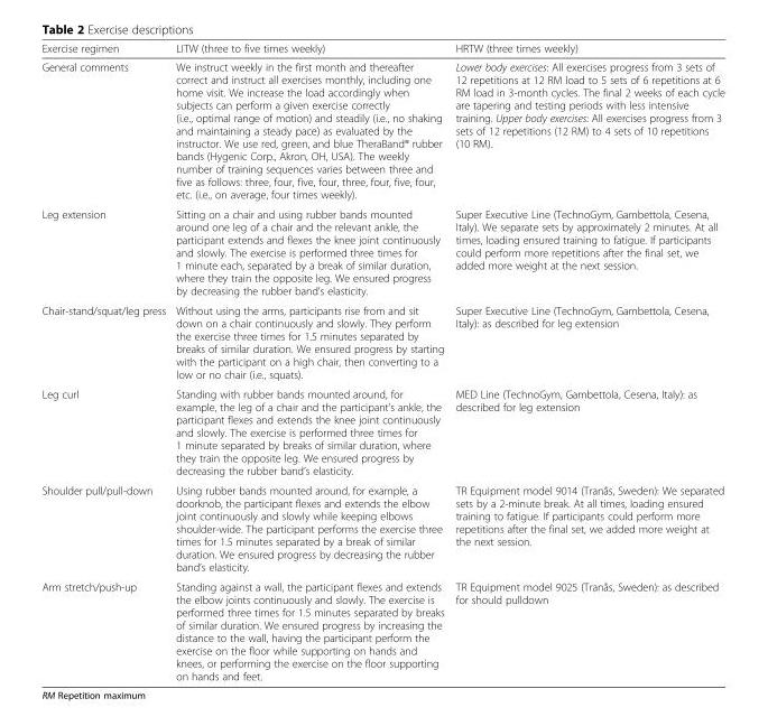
<table><thead><tr><td>Exercise regimen</td><td>LITW (three to five times weekly)</td><td>HRTW (three times weekly)</td></tr></thead><tbody><tr><td>General comments</td><td>We instruct weekly in the first month and thereafter correct and instruct all exercises monthly, including one home visit. We increase the load accordingly when subjects can perform a given exercise correctly (i.e., optimal range of motion) and steadily (i.e., no shaking and maintaining a steady pace) as evaluated by the instructor. We use red, green, and blue TheraBand® rubber bands (Hygenic Corp., Akron, OH, USA). The weekly number of training sequences varies between three and five as follows: three, four, five, four, three, four, five, four, etc. (i.e., on average, four times weekly).</td><td>Lower body exercises: All exercises progress from 3 sets of 12 repetitions at 12 RM load to 5 sets of 6 repetitions at 6 RM load in 3-month cycles. The final 2 weeks of each cycle are tapering and testing periods with less intensive training. Upper body exercises: All exercises progress from 3 sets of 12 repetitions (12 RM) to 4 sets of 10 repetitions (10 RM).</td></tr><tr><td>Leg extension</td><td>Sitting on a chair and using rubber bands mounted around one leg of a chair and the relevant ankle, the participant extends and flexes the knee joint continuously and slowly. The exercise is performed three times for 1 minute each, separated by a break of similar duration, where they train the opposite leg. We ensured progress by decreasing the rubber band’s elasticity.</td><td>Super Executive Line (TechnoGym, Gambettola, Cesena, Italy). We separate sets by approximately 2 minutes. At all times, loading ensured training to fatigue. If participants could perform more repetitions after the final set, we added more weight at the next session.</td></tr><tr><td>Chair-stand/squat/leg press</td><td>Without using the arms, participants rise from and sit down on a chair continuously and slowly. They perform the exercise three times for 1.5 minutes separated by breaks of similar duration. We ensured progress by starting with the participant on a high chair, then converting to a low or no chair (i.e., squats).</td><td>Super Executive Line (TechnoGym, Gambettola, Cesena, Italy): as described for leg extension</td></tr><tr><td>Leg curl</td><td>Standing with rubber bands mounted around, for example, the leg of a chair and the participant’s ankle, the participant flexes and extends the knee joint continuously and slowly. The exercise is performed three times for 1 minute separated by breaks of similar duration, where they train the opposite leg. We ensured progress by decreasing the rubber band’s elasticity.</td><td>MED Line (TechnoGym, Gambettola, Cesena, Italy): as described for leg extension</td></tr><tr><td>Shoulder pull/pull-down</td><td>Using rubber bands mounted around, for example, a doorknob, the participant flexes and extends the elbow joint continuously and slowly while keeping elbows shoulder-wide. The participant performs the exercise three times for 1.5 minutes separated by a break of similar duration. We ensured progress by decreasing the rubber band’s elasticity.</td><td>TR Equipment model 9014 (Tranås, Sweden): We separated sets by a 2-minute break. At all times, loading ensured training to fatigue. If participants could perform more repetitions after the final set, we added more weight at the next session.</td></tr><tr><td>Arm stretch/push-up</td><td>Standing against a wall, the participant flexes and extends the elbow joints continuously and slowly. The exercise is performed three times for 1.5 minutes separated by breaks of similar duration. We ensured progress by increasing the distance to the wall, having the participant perform the exercise on the floor while supporting on hands and knees, or performing the exercise on the floor supporting on hands and feet.</td><td>TR Equipment model 9025 (Tranås, Sweden): as described for should pulldown</td></tr></tbody></table>